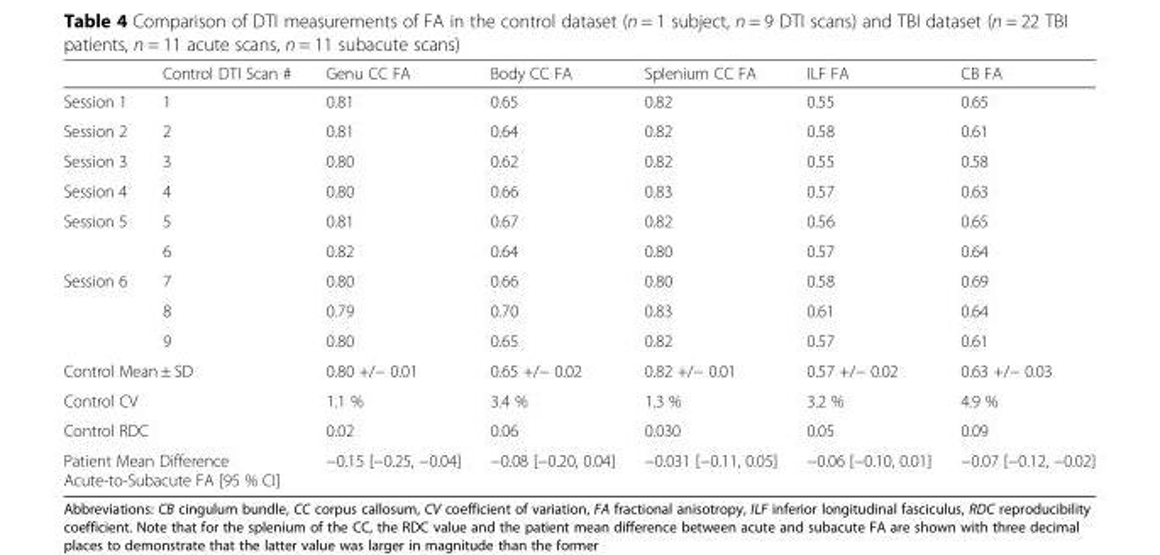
<table><thead><tr><td></td><td>Control DTI Scan #</td><td>Genu CC FA</td><td>Body CC FA</td><td>Splenium CC FA</td><td>ILF FA</td><td>CB FA</td></tr></thead><tbody><tr><td>Session 1</td><td>1</td><td>0.81</td><td>0.65</td><td>0.82</td><td>0.55</td><td>0.65</td></tr><tr><td>Session 2</td><td>2</td><td>0.81</td><td>0.64</td><td>0.82</td><td>0.58</td><td>0.61</td></tr><tr><td>Session 3</td><td>3</td><td>0.80</td><td>0.62</td><td>0.82</td><td>0.55</td><td>0.58</td></tr><tr><td>Session 4</td><td>4</td><td>0.80</td><td>0.66</td><td>0.83</td><td>0.57</td><td>0.63</td></tr><tr><td rowspan="2">Session 5</td><td>5</td><td>0.81</td><td>0.67</td><td>0.82</td><td>0.56</td><td>0.65</td></tr><tr><td>6</td><td>0.82</td><td>0.64</td><td>0.80</td><td>0.57</td><td>0.64</td></tr><tr><td rowspan="3">Session 6</td><td>7</td><td>0.80</td><td>0.66</td><td>0.80</td><td>0.58</td><td>0.69</td></tr><tr><td>8</td><td>0.79</td><td>0.70</td><td>0.83</td><td>0.61</td><td>0.64</td></tr><tr><td>9</td><td>0.80</td><td>0.65</td><td>0.82</td><td>0.57</td><td>0.61</td></tr><tr><td colspan="2">Control Mean ± SD</td><td>0.80 +/− 0.01</td><td>0.65 +/− 0.02</td><td>0.82 +/− 0.01</td><td>0.57 +/− 0.02</td><td>0.63 +/− 0.03</td></tr><tr><td colspan="2">Control CV</td><td>1.1 %</td><td>3.4 %</td><td>1.3 %</td><td>3.2 %</td><td>4.9 %</td></tr><tr><td colspan="2">Control RDC</td><td>0.02</td><td>0.06</td><td>0.030</td><td>0.05</td><td>0.09</td></tr><tr><td colspan="2">Patient Mean Difference Acute-to-Subacute FA [95 % CI]</td><td>−0.15 [−0.25, −0.04]</td><td>−0.08 [−0.20, 0.04]</td><td>−0.031 [−0.11, 0.05]</td><td>−0.06 [−0.10, 0.01]</td><td>−0.07 [−0.12, −0.02]</td></tr></tbody></table>